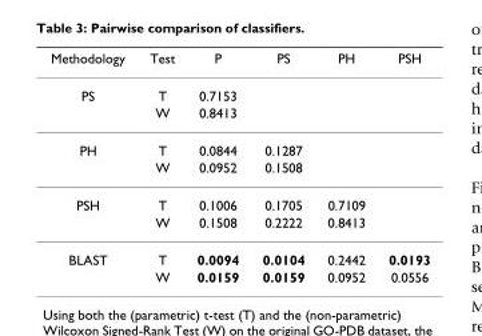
<table><thead><tr><td>Methodology</td><td>Test</td><td>P</td><td>PS</td><td>PH</td><td>PSH</td></tr></thead><tbody><tr><td rowspan="2">PS</td><td>T</td><td>0.7153</td><td></td><td></td><td></td></tr><tr><td>W</td><td>0.8413</td><td></td><td></td><td></td></tr><tr><td rowspan="2">PH</td><td>T</td><td>0.0844</td><td>0.1287</td><td></td><td></td></tr><tr><td>W</td><td>0.0952</td><td>0.1508</td><td></td><td></td></tr><tr><td rowspan="2">PSH</td><td>T</td><td>0.1006</td><td>0.1705</td><td>0.7109</td><td></td></tr><tr><td>W</td><td>0.1508</td><td>0.2222</td><td>0.8413</td><td></td></tr><tr><td rowspan="2">BLAST</td><td>T</td><td>0.0094</td><td>0.0104</td><td>0.2442</td><td>0.0193</td></tr><tr><td>W</td><td>0.0159</td><td>0.0159</td><td>0.0952</td><td>0.0556</td></tr></tbody></table>